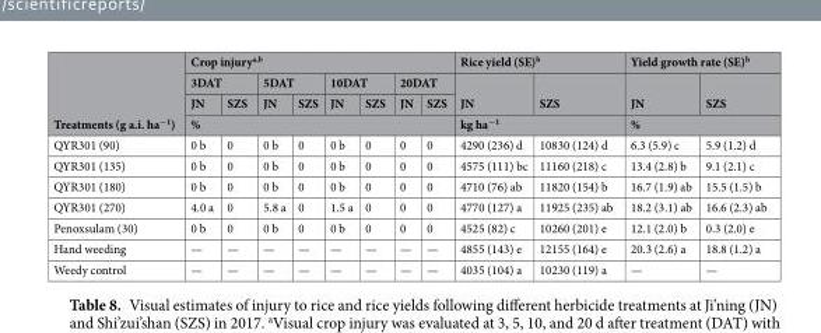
<table><thead><tr><td rowspan="4">Treatments (g a.i. ha<sup>−1</sup>)</td><td colspan="8">Crop injury<sup>a,b</sup></td><td colspan="2">Rice yield (SE)<sup>b</sup></td><td colspan="2">Yield growth rate (SE)<sup>b</sup></td></tr><tr><td colspan="2">3DAT</td><td colspan="2">5DAT</td><td colspan="2">10DAT</td><td colspan="2">20DAT</td><td rowspan="2">JN</td><td rowspan="2">SZS</td><td rowspan="2">JN</td><td rowspan="2">SZS</td></tr><tr><td>JN</td><td>SZS</td><td>JN</td><td>SZS</td><td>JN</td><td>SZS</td><td>JN</td><td>SZS</td></tr><tr><td colspan="8">%</td><td colspan="2">kg ha<sup>−1</sup></td><td colspan="2">%</td></tr></thead><tbody><tr><td>QYR301 (90)</td><td>0 b</td><td>0</td><td>0 b</td><td>0</td><td>0 b</td><td>0</td><td>0</td><td>0</td><td>4290 (236) d</td><td>10830 (124) d</td><td>6.3 (5.9) c</td><td>5.9 (1.2) d</td></tr><tr><td>QYR301 (135)</td><td>0 b</td><td>0</td><td>0 b</td><td>0</td><td>0 b</td><td>0</td><td>0</td><td>0</td><td>4575 (111) bc</td><td>11160 (218) c</td><td>13.4 (2.8) b</td><td>9.1 (2.1) c</td></tr><tr><td>QYR301 (180)</td><td>0 b</td><td>0</td><td>0 b</td><td>0</td><td>0 b</td><td>0</td><td>0</td><td>0</td><td>4710 (76) ab</td><td>11820 (154) b</td><td>16.7 (1.9) ab</td><td>15.5 (1.5) b</td></tr><tr><td>QYR301 (270)</td><td>4.0 a</td><td>0</td><td>5.8 a</td><td>0</td><td>1.5 a</td><td>0</td><td>0</td><td>0</td><td>4770 (127) a</td><td>11925 (235) ab</td><td>18.2 (3.1) ab</td><td>16.6 (2.3) ab</td></tr><tr><td>Penoxsulam (30)</td><td>0 b</td><td>0</td><td>0 b</td><td>0</td><td>0 b</td><td>0</td><td>0</td><td>0</td><td>4525 (82) c</td><td>10260 (201) e</td><td>12.1 (2.0) b</td><td>0.3 (2.0) e</td></tr><tr><td>Hand weeding</td><td>—</td><td>—</td><td>—</td><td>—</td><td>—</td><td>—</td><td>—</td><td>—</td><td>4855 (143) e</td><td>12155 (164) e</td><td>20.3 (2.6) a</td><td>18.8 (1.2) a</td></tr><tr><td>Weedy control</td><td>—</td><td>—</td><td>—</td><td>—</td><td>—</td><td>—</td><td>—</td><td>—</td><td>4035 (104) a</td><td>10230 (119) a</td><td>—</td><td>—</td></tr></tbody></table>